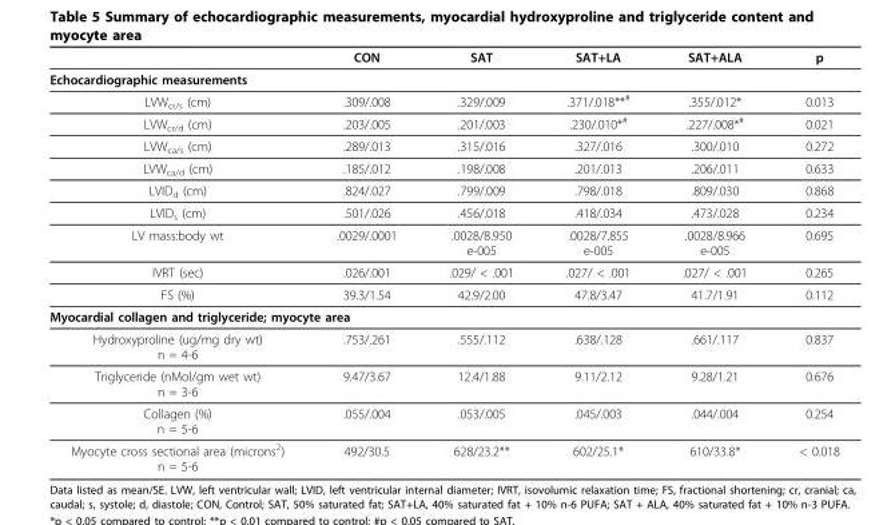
<table><thead><tr><td></td><td>CON</td><td>SAT</td><td>SAT+LA</td><td>SAT+ALA</td><td>p</td></tr></thead><tbody><tr><td colspan="6">Echocardiographic measurements</td></tr><tr><td>LVW<sub>cr/s</sub> (cm)</td><td>.309/.008</td><td>.329/.009</td><td>.371/.018**<sup>#</sup></td><td>.355/.012*</td><td>0.013</td></tr><tr><td>LVW<sub>cr/d</sub> (cm)</td><td>.203/.005</td><td>.201/.003</td><td>.230/.010*<sup>#</sup></td><td>.227/.008*<sup>#</sup></td><td>0.021</td></tr><tr><td>LVW<sub>ca/s</sub> (cm)</td><td>.289/.013</td><td>.315/.016</td><td>.327/.016</td><td>.300/.010</td><td>0.272</td></tr><tr><td>LVW<sub>ca/d</sub> (cm)</td><td>.185/.012</td><td>.198/.008</td><td>.201/.013</td><td>.206/.011</td><td>0.633</td></tr><tr><td>LVID<sub>d</sub> (cm)</td><td>.824/.027</td><td>.799/.009</td><td>.798/.018</td><td>.809/.030</td><td>0.868</td></tr><tr><td>LVID<sub>s</sub> (cm)</td><td>.501/.026</td><td>.456/.018</td><td>.418/.034</td><td>.473/.028</td><td>0.234</td></tr><tr><td>LV mass:body wt</td><td>.0029/.0001</td><td>.0028/8.950 e-005</td><td>.0028/7.855 e-005</td><td>.0028/8.966 e-005</td><td>0.695</td></tr><tr><td>IVRT (sec)</td><td>.026/.001</td><td>.029/ &lt; .001</td><td>.027/ &lt; .001</td><td>.027/ &lt; .001</td><td>0.265</td></tr><tr><td>FS (%)</td><td>39.3/1.54</td><td>42.9/2.00</td><td>47.8/3.47</td><td>41.7/1.91</td><td>0.112</td></tr><tr><td colspan="6">Myocardial collagen and triglyceride; myocyte area</td></tr><tr><td>Hydroxyproline (ug/mg dry wt) n = 4-6</td><td>.753/.261</td><td>.555/.112</td><td>.638/.128</td><td>.661/.117</td><td>0.837</td></tr><tr><td>Triglyceride (nMol/gm wet wt) n = 3-6</td><td>9.47/3.67</td><td>12.4/1.88</td><td>9.11/2.12</td><td>9.28/1.21</td><td>0.676</td></tr><tr><td>Collagen (%) n = 5-6</td><td>.055/.004</td><td>.053/.005</td><td>.045/.003</td><td>.044/.004</td><td>0.254</td></tr><tr><td>Myocyte cross sectional area (microns<sup>2</sup>) n = 5-6</td><td>492/30.5</td><td>628/23.2**</td><td>602/25.1*</td><td>610/33.8*</td><td>&lt; 0.018</td></tr></tbody></table>